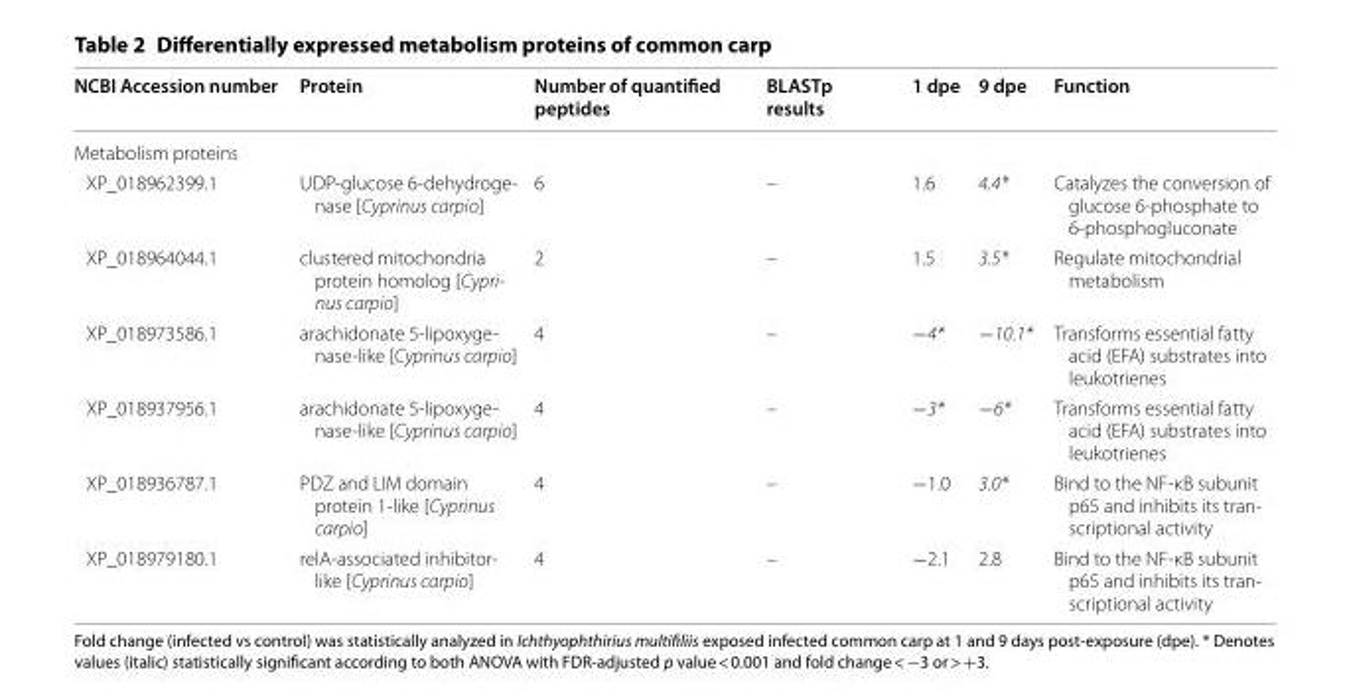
<table><thead><tr><td>NCBI Accession number</td><td>Protein</td><td>Number of quantified peptides</td><td>BLASTp results</td><td>1 dpe</td><td>9 dpe</td><td>Function</td></tr></thead><tbody><tr><td colspan="7">Metabolism proteins</td></tr><tr><td>XP_018962399.1</td><td>UDP‑glucose 6‑dehydroge‑ nase [Cyprinus carpio]</td><td>6</td><td>–</td><td>1.6</td><td>4.4*</td><td>Catalyzes the conversion of glucose 6‑phosphate to 6‑phosphogluconate</td></tr><tr><td>XP_018964044.1</td><td>clustered mitochondria protein homolog [Cypri- nus carpio]</td><td>2</td><td>–</td><td>1.5</td><td>3.5*</td><td>Regulate mitochondrial metabolism</td></tr><tr><td>XP_018973586.1</td><td>arachidonate 5‑lipoxyge‑ nase‑like [Cyprinus carpio]</td><td>4</td><td>–</td><td>−4*</td><td>−10.1*</td><td>Transforms essential fatty acid (EFA) substrates into leukotrienes</td></tr><tr><td>XP_018937956.1</td><td>arachidonate 5‑lipoxyge‑ nase‑like [Cyprinus carpio]</td><td>4</td><td>–</td><td>−3*</td><td>−6*</td><td>Transforms essential fatty acid (EFA) substrates into leukotrienes</td></tr><tr><td>XP_018936787.1</td><td>PDZ and LIM domain protein 1‑like [Cyprinus carpio]</td><td>4</td><td>–</td><td>−1.0</td><td>3.0*</td><td>Bind to the NF‑κB subunit p65 and inhibits its tran‑ scriptional activity</td></tr><tr><td>XP_018979180.1</td><td>relA‑associated inhibitor‑ like [Cyprinus carpio]</td><td>4</td><td>–</td><td>−2.1</td><td>2.8</td><td>Bind to the NF‑κB subunit p65 and inhibits its tran‑ scriptional activity</td></tr></tbody></table>